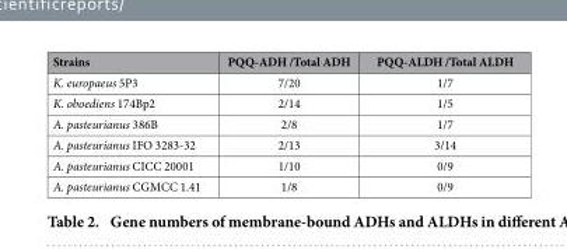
<table><thead><tr><td>Strains</td><td>PQQ-ADH /Total ADH</td><td>PQQ-ALDH /Total ALDH</td></tr></thead><tbody><tr><td>K. europaeus 5P3</td><td>7/20</td><td>1/7</td></tr><tr><td>K. oboediens 174Bp2</td><td>2/14</td><td>1/5</td></tr><tr><td>A. pasteurianus 386B</td><td>2/8</td><td>1/7</td></tr><tr><td>A. pasteurianus IFO 3283-32</td><td>2/13</td><td>3/14</td></tr><tr><td>A. pasteurianus CICC 20001</td><td>1/10</td><td>0/9</td></tr><tr><td>A. pasteurianus CGMCC 1.41</td><td>1/8</td><td>0/9</td></tr></tbody></table>